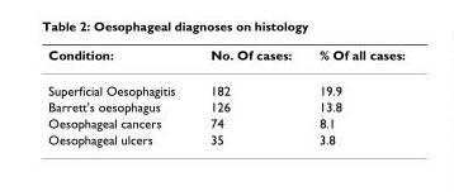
<table><thead><tr><td>Condition:</td><td>No. Of cases:</td><td>% Of all cases:</td></tr></thead><tbody><tr><td>Superficial Oesophagitis</td><td>182</td><td>19.9</td></tr><tr><td>Barrett&#x27;s oesophagus</td><td>126</td><td>13.8</td></tr><tr><td>Oesophageal cancers</td><td>74</td><td>8.1</td></tr><tr><td>Oesophageal ulcers</td><td>35</td><td>3.8</td></tr></tbody></table>